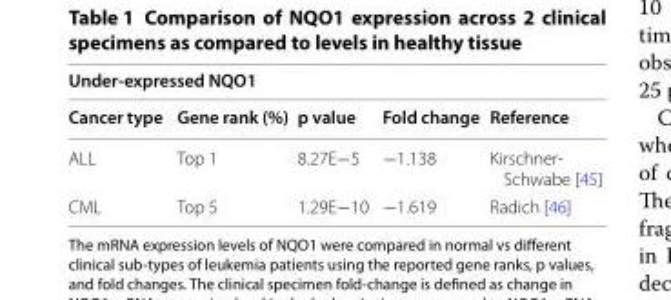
<table><thead><tr><td colspan="5">Under‑expressed NQO1</td></tr><tr><td>Cancer type</td><td>Gene rank (%)</td><td>p value</td><td>Fold change</td><td>Reference</td></tr></thead><tbody><tr><td>ALL</td><td>Top 1</td><td>8.27E−5</td><td>−1.138</td><td>Kirschner‑ Schwabe [45]</td></tr><tr><td>CML</td><td>Top 5</td><td>1.29E−10</td><td>−1.619</td><td>Radich [46]</td></tr></tbody></table>